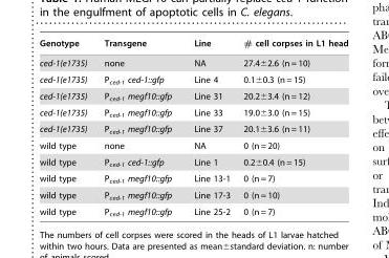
<table><thead><tr><td>Genotype</td><td>Transgene</td><td>Line</td><td># cell corpses in L1 head</td></tr></thead><tbody><tr><td>ced-1(e1735)</td><td>none</td><td>NA</td><td>27.4±2.6 (n = 10)</td></tr><tr><td>ced-1(e1735)</td><td>P<sub>ced-1</sub> ced-1::gfp</td><td>Line 4</td><td>0.1±0.3 (n = 15)</td></tr><tr><td>ced-1(e1735)</td><td>P<sub>ced-1</sub> megf10::gfp</td><td>Line 31</td><td>20.2±3.4 (n = 12)</td></tr><tr><td>ced-1(e1735)</td><td>P<sub>ced-1</sub> megf10::gfp</td><td>Line 33</td><td>19.0±3.0 (n = 15)</td></tr><tr><td>ced-1(e1735)</td><td>P<sub>ced-1</sub> megf10::gfp</td><td>Line 37</td><td>20.1±3.6 (n = 11)</td></tr><tr><td>wild type</td><td>none</td><td>NA</td><td>0 (n = 20)</td></tr><tr><td>wild type</td><td>P<sub>ced-1</sub> ced-1::gfp</td><td>Line 1</td><td>0.2±0.4 (n = 15)</td></tr><tr><td>wild type</td><td>P<sub>ced-1</sub> megf10::gfp</td><td>Line 13-1</td><td>0 (n = 7)</td></tr><tr><td>wild type</td><td>P<sub>ced-1</sub> megf10::gfp</td><td>Line 17-3</td><td>0 (n = 10)</td></tr><tr><td>wild type</td><td>P<sub>ced-1</sub> megf10::gfp</td><td>Line 25-2</td><td>0 (n = 7)</td></tr></tbody></table>